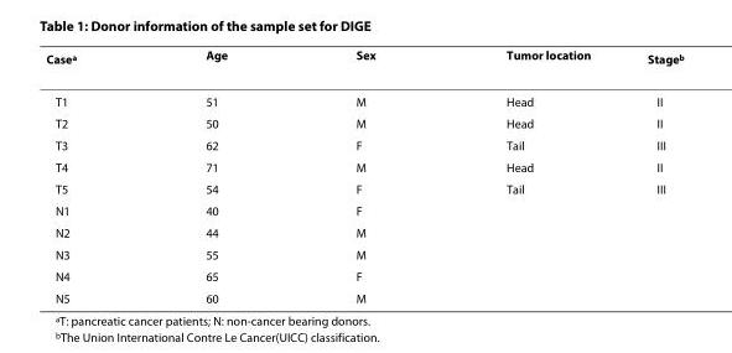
<table><thead><tr><td>Case<sup>a</sup></td><td>Age</td><td>Sex</td><td>Tumor location</td><td>Stage<sup>b</sup></td></tr></thead><tbody><tr><td>T1</td><td>51</td><td>M</td><td>Head</td><td>II</td></tr><tr><td>T2</td><td>50</td><td>M</td><td>Head</td><td>II</td></tr><tr><td>T3</td><td>62</td><td>F</td><td>Tail</td><td>III</td></tr><tr><td>T4</td><td>71</td><td>M</td><td>Head</td><td>II</td></tr><tr><td>T5</td><td>54</td><td>F</td><td>Tail</td><td>III</td></tr><tr><td>N1</td><td>40</td><td>F</td><td></td><td></td></tr><tr><td>N2</td><td>44</td><td>M</td><td></td><td></td></tr><tr><td>N3</td><td>55</td><td>M</td><td></td><td></td></tr><tr><td>N4</td><td>65</td><td>F</td><td></td><td></td></tr><tr><td>N5</td><td>60</td><td>M</td><td></td><td></td></tr></tbody></table>